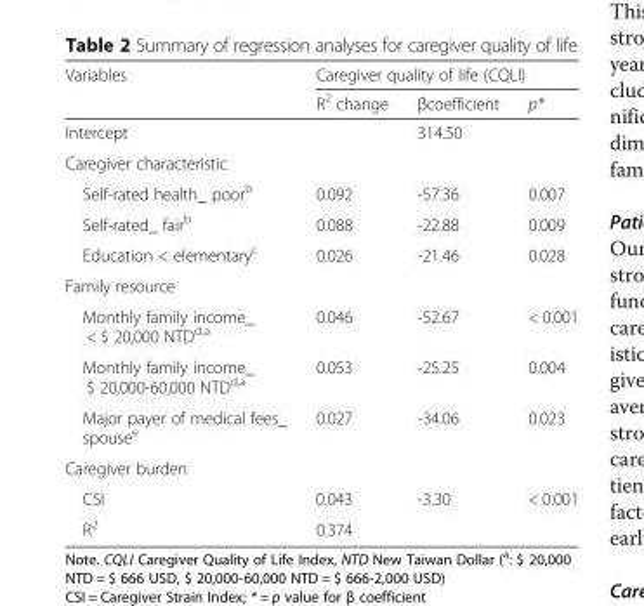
<table><thead><tr><td rowspan="2">Variables</td><td colspan="3">Caregiver quality of life (CQLI)</td></tr><tr><td>R<sup>2</sup> change</td><td>βcoefficient</td><td>p*</td></tr></thead><tbody><tr><td>Intercept</td><td></td><td>314.50</td><td></td></tr><tr><td colspan="4">Caregiver characteristic</td></tr><tr><td>Self-rated health_ poor<sup>b</sup></td><td>0.092</td><td>-57.36</td><td>0.007</td></tr><tr><td>Self-rated_ fair<sup>b</sup></td><td>0.088</td><td>-22.88</td><td>0.009</td></tr><tr><td>Education &lt; elementary<sup>c</sup></td><td>0.026</td><td>-21.46</td><td>0.028</td></tr><tr><td colspan="4">Family resource</td></tr><tr><td>Monthly family income_ &lt; $ 20,000 NTD<sup>d,a</sup></td><td>0.046</td><td>-52.67</td><td>&lt; 0.001</td></tr><tr><td>Monthly family income_ $ 20,000-60,000 NTD<sup>d,a</sup></td><td>0.053</td><td>-25.25</td><td>0.004</td></tr><tr><td>Major payer of medical fees_ spouse<sup>e</sup></td><td>0.027</td><td>-34.06</td><td>0.023</td></tr><tr><td colspan="4">Caregiver burden</td></tr><tr><td>CSI</td><td>0.043</td><td>-3.30</td><td>&lt; 0.001</td></tr><tr><td>R<sup>2</sup></td><td>0.374</td><td></td><td></td></tr></tbody></table>